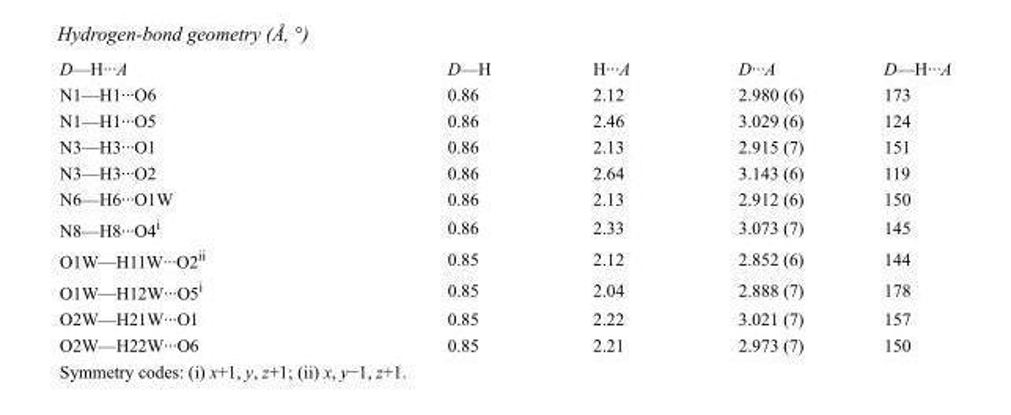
<table><tbody><tr><td>D—H···A</td><td>D—H</td><td>H···A</td><td>D···A</td><td>D—H···A</td></tr><tr><td>N1—H1···O6</td><td>0.86</td><td>2.12</td><td>2.980 (6)</td><td>173</td></tr><tr><td>N1—H1···O5</td><td>0.86</td><td>2.46</td><td>3.029 (6)</td><td>124</td></tr><tr><td>N3—H3···O1</td><td>0.86</td><td>2.13</td><td>2.915 (7)</td><td>151</td></tr><tr><td>N3—H3···O2</td><td>0.86</td><td>2.64</td><td>3.143 (6)</td><td>119</td></tr><tr><td>N6—H6···O1W</td><td>0.86</td><td>2.13</td><td>2.912 (6)</td><td>150</td></tr><tr><td>N8—H8···O4<sup>i</sup></td><td>0.86</td><td>2.33</td><td>3.073 (7)</td><td>145</td></tr><tr><td>O1W—H11W···O2<sup>ii</sup></td><td>0.85</td><td>2.12</td><td>2.852 (6)</td><td>144</td></tr><tr><td>O1W—H12W···O5<sup>i</sup></td><td>0.85</td><td>2.04</td><td>2.888 (7)</td><td>178</td></tr><tr><td>O2W—H21W···O1</td><td>0.85</td><td>2.22</td><td>3.021 (7)</td><td>157</td></tr><tr><td>O2W—H22W···O6</td><td>0.85</td><td>2.21</td><td>2.973 (7)</td><td>150</td></tr></tbody></table>